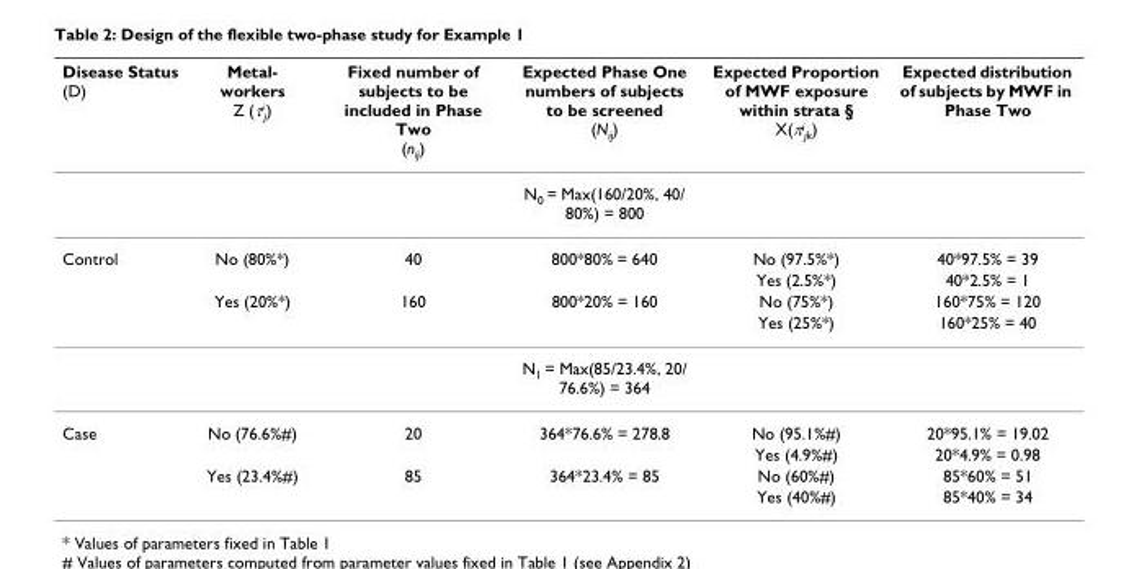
<table><thead><tr><td>Disease Status (D)</td><td>Metal- workers Z (τ<sup>i</sup><sub>j</sub>)</td><td>Fixed number of subjects to be included in Phase Two (n<sub>ij</sub>)</td><td>Expected Phase One numbers of subjects to be screened (N<sub>ij</sub>)</td><td>Expected Proportion of MWF exposure within strata § X(π<sup>i</sup><sub>jk</sub>)</td><td>Expected distribution of subjects by MWF in Phase Two</td></tr></thead><tbody><tr><td></td><td></td><td></td><td>N<sub>0</sub> = Max(160/20%, 40/ 80%) = 800</td><td></td><td></td></tr><tr><td rowspan="5">Control</td><td>No (80%*)</td><td>40</td><td>800*80% = 640</td><td>No (97.5%*)</td><td>40*97.5% = 39</td></tr><tr><td></td><td></td><td></td><td>Yes (2.5%*)</td><td>40*2.5% = 1</td></tr><tr><td>Yes (20%*)</td><td>160</td><td>800*20% = 160</td><td>No (75%*)</td><td>160*75% = 120</td></tr><tr><td></td><td></td><td></td><td>Yes (25%*)</td><td>160*25% = 40</td></tr><tr><td></td><td></td><td>N<sub>1</sub> = Max(85/23.4%, 20/ 76.6%) = 364</td><td></td><td></td></tr><tr><td rowspan="4">Case</td><td>No (76.6%#)</td><td>20</td><td>364*76.6% = 278.8</td><td>No (95.1%#)</td><td>20*95.1% = 19.02</td></tr><tr><td></td><td></td><td></td><td>Yes (4.9%#)</td><td>20*4.9% = 0.98</td></tr><tr><td>Yes (23.4%#)</td><td>85</td><td>364*23.4% = 85</td><td>No (60%#)</td><td>85*60% = 51</td></tr><tr><td></td><td></td><td></td><td>Yes (40%#)</td><td>85*40% = 34</td></tr></tbody></table>